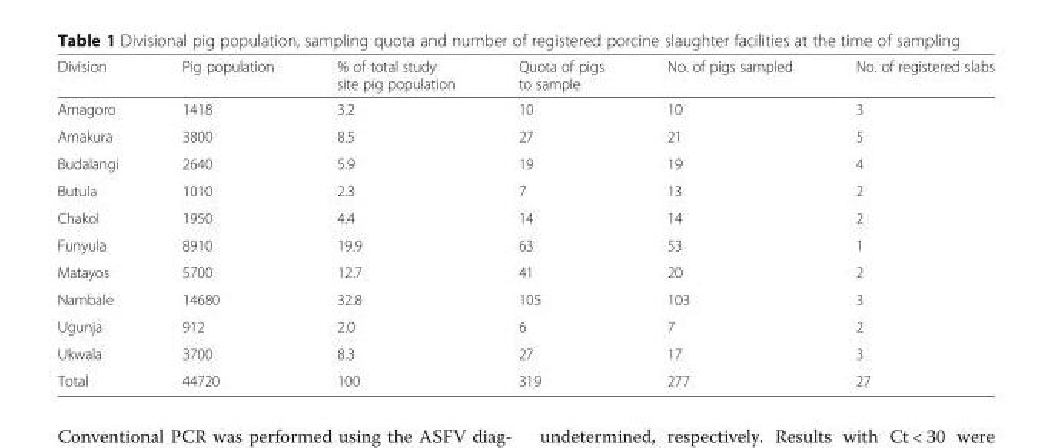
<table><thead><tr><td>Division</td><td>Pig population</td><td>% of total study site pig population</td><td>Quota of pigs to sample</td><td>No. of pigs sampled</td><td>No. of registered slabs</td></tr></thead><tbody><tr><td>Amagoro</td><td>1418</td><td>3.2</td><td>10</td><td>10</td><td>3</td></tr><tr><td>Amakura</td><td>3800</td><td>8.5</td><td>27</td><td>21</td><td>5</td></tr><tr><td>Budalangi</td><td>2640</td><td>5.9</td><td>19</td><td>19</td><td>4</td></tr><tr><td>Butula</td><td>1010</td><td>2.3</td><td>7</td><td>13</td><td>2</td></tr><tr><td>Chakol</td><td>1950</td><td>4.4</td><td>14</td><td>14</td><td>2</td></tr><tr><td>Funyula</td><td>8910</td><td>19.9</td><td>63</td><td>53</td><td>1</td></tr><tr><td>Matayos</td><td>5700</td><td>12.7</td><td>41</td><td>20</td><td>2</td></tr><tr><td>Nambale</td><td>14680</td><td>32.8</td><td>105</td><td>103</td><td>3</td></tr><tr><td>Ugunja</td><td>912</td><td>2.0</td><td>6</td><td>7</td><td>2</td></tr><tr><td>Ukwala</td><td>3700</td><td>8.3</td><td>27</td><td>17</td><td>3</td></tr><tr><td>Total</td><td>44720</td><td>100</td><td>319</td><td>277</td><td>27</td></tr></tbody></table>